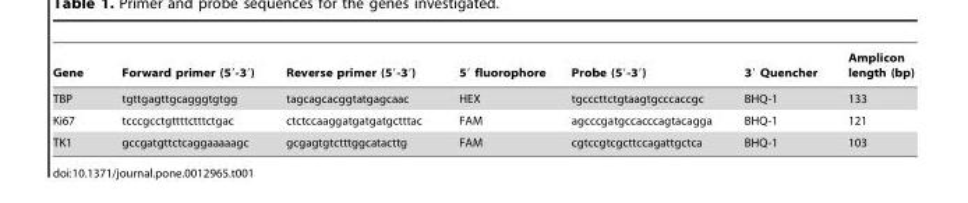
<table><thead><tr><td>Gene</td><td>Forward primer (5′-3′)</td><td>Reverse primer (5′-3′)</td><td>5′ fluorophore</td><td>Probe (5′-3′)</td><td>3′ Quencher</td><td>Amplicon length (bp)</td></tr></thead><tbody><tr><td>TBP</td><td>tgttgagttgcagggtgtgg</td><td>tagcagcacggtatgagcaac</td><td>HEX</td><td>tgcccttctgtaagtgcccaccgc</td><td>BHQ-1</td><td>133</td></tr><tr><td>Ki67</td><td>tcccgcctgttttctttctgac</td><td>ctctccaaggatgatgatgctttac</td><td>FAM</td><td>agcccgatgccacccagtacagga</td><td>BHQ-1</td><td>121</td></tr><tr><td>TK1</td><td>gccgatgttctcaggaaaaagc</td><td>gcgagtgtctttggcatacttg</td><td>FAM</td><td>cgtccgtcgcttccagattgctca</td><td>BHQ-1</td><td>103</td></tr></tbody></table>